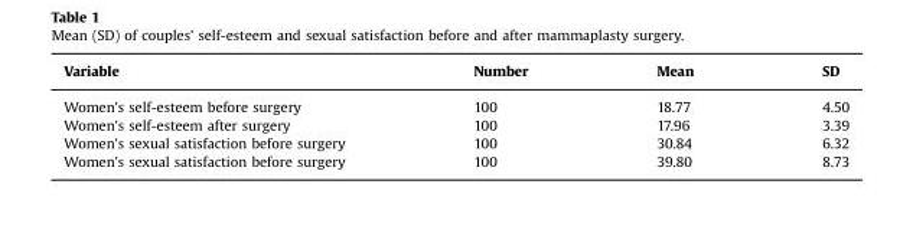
<table><thead><tr><td>Variable</td><td>Number</td><td>Mean</td><td>SD</td></tr></thead><tbody><tr><td>Women&#x27;s self-esteem before surgery</td><td>100</td><td>18.77</td><td>4.50</td></tr><tr><td>Women&#x27;s self-esteem after surgery</td><td>100</td><td>17.96</td><td>3.39</td></tr><tr><td>Women&#x27;s sexual satisfaction before surgery</td><td>100</td><td>30.84</td><td>6.32</td></tr><tr><td>Women&#x27;s sexual satisfaction before surgery</td><td>100</td><td>39.80</td><td>8.73</td></tr></tbody></table>